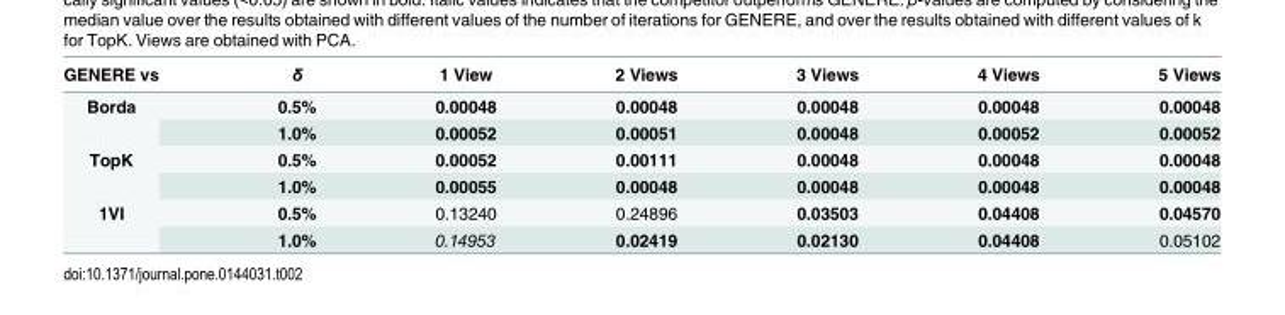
<table><thead><tr><td>GENERE vs</td><td>δ</td><td>1 View</td><td>2 Views</td><td>3 Views</td><td>4 Views</td><td>5 Views</td></tr></thead><tbody><tr><td rowspan="2">Borda</td><td>0.5%</td><td>0.00048</td><td>0.00048</td><td>0.00048</td><td>0.00048</td><td>0.00048</td></tr><tr><td>1.0%</td><td>0.00052</td><td>0.00051</td><td>0.00048</td><td>0.00052</td><td>0.00052</td></tr><tr><td rowspan="2">TopK</td><td>0.5%</td><td>0.00052</td><td>0.00111</td><td>0.00048</td><td>0.00048</td><td>0.00048</td></tr><tr><td>1.0%</td><td>0.00055</td><td>0.00048</td><td>0.00048</td><td>0.00048</td><td>0.00048</td></tr><tr><td rowspan="2">1VI</td><td>0.5%</td><td>0.13240</td><td>0.24896</td><td>0.03503</td><td>0.04408</td><td>0.04570</td></tr><tr><td>1.0%</td><td>0.14953</td><td>0.02419</td><td>0.02130</td><td>0.04408</td><td>0.05102</td></tr></tbody></table>